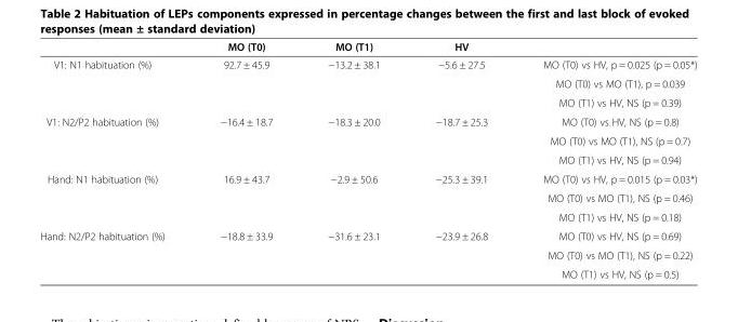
<table><thead><tr><td></td><td>MO (T0)</td><td>MO (T1)</td><td>HV</td><td></td></tr></thead><tbody><tr><td rowspan="3">V1: N1 habituation (%)</td><td rowspan="3">92.7 ± 45.9</td><td rowspan="3">−13.2 ± 38.1</td><td rowspan="3">−5.6 ± 27.5</td><td>MO (T0) vs HV, p = 0.025 (p = 0.05*)</td></tr><tr><td>MO (T0) vs MO (T1), p = 0.039</td></tr><tr><td>MO (T1) vs HV, NS (p = 0.39)</td></tr><tr><td rowspan="3">V1: N2/P2 habituation (%)</td><td rowspan="3">−16.4 ± 18.7</td><td rowspan="3">−18.3 ± 20.0</td><td rowspan="3">−18.7 ± 25.3</td><td>MO (T0) vs HV, NS (p = 0.8)</td></tr><tr><td>MO (T0) vs MO (T1), NS (p = 0.7)</td></tr><tr><td>MO (T1) vs HV, NS (p = 0.94)</td></tr><tr><td rowspan="3">Hand: N1 habituation (%)</td><td rowspan="3">16.9 ± 43.7</td><td rowspan="3">−2.9 ± 50.6</td><td rowspan="3">−25.3 ± 39.1</td><td>MO (T0) vs HV, p = 0.015 (p = 0.03*)</td></tr><tr><td>MO (T0) vs MO (T1), NS (p = 0.46)</td></tr><tr><td>MO (T1) vs HV, NS (p = 0.18)</td></tr><tr><td rowspan="3">Hand: N2/P2 habituation (%)</td><td rowspan="2">−18.8 ± 33.9</td><td rowspan="2">−31.6 ± 23.1</td><td rowspan="2">−23.9 ± 26.8</td><td>MO (T0) vs HV, NS (p = 0.69)</td></tr><tr><td>MO (T0) vs MO (T1), NS (p = 0.22)</td></tr><tr><td></td><td></td><td></td><td>MO (T1) vs HV, NS (p = 0.5)</td></tr></tbody></table>